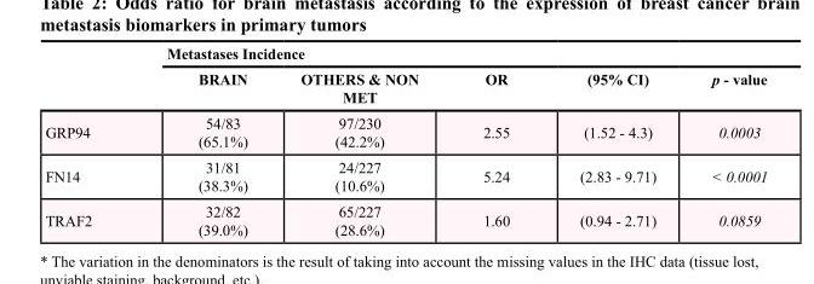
<table><thead><tr><td rowspan="2"></td><td colspan="5">Metastases Incidence</td></tr><tr><td>BRAIN</td><td>OTHERS &amp; NON MET</td><td>OR</td><td>(95% CI)</td><td>p - value</td></tr></thead><tbody><tr><td>GRP94</td><td>54/83 (65.1%)</td><td>97/230 (42.2%)</td><td>2.55</td><td>(1.52 - 4.3)</td><td>0.0003</td></tr><tr><td>FN14</td><td>31/81 (38.3%)</td><td>24/227 (10.6%)</td><td>5.24</td><td>(2.83 - 9.71)</td><td>&lt; 0.0001</td></tr><tr><td>TRAF2</td><td>32/82 (39.0%)</td><td>65/227 (28.6%)</td><td>1.60</td><td>(0.94 - 2.71)</td><td>0.0859</td></tr></tbody></table>